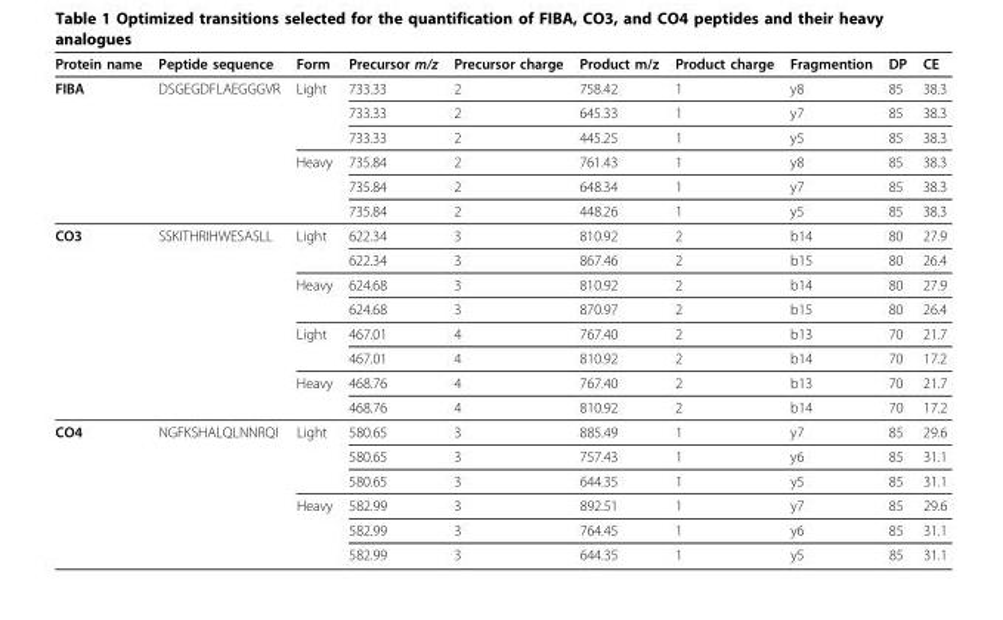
<table><thead><tr><td>Protein name</td><td>Peptide sequence</td><td>Form</td><td>Precursor m/z</td><td>Precursor charge</td><td>Product m/z</td><td>Product charge</td><td>Fragmention</td><td>DP</td><td>CE</td></tr></thead><tbody><tr><td rowspan="6">FIBA</td><td>DSGEGDFLAEGGGVR</td><td>Light</td><td>733.33</td><td>2</td><td>758.42</td><td>1</td><td>y8</td><td>85</td><td>38.3</td></tr><tr><td></td><td></td><td>733.33</td><td>2</td><td>645.33</td><td>1</td><td>y7</td><td>85</td><td>38.3</td></tr><tr><td></td><td></td><td>733.33</td><td>2</td><td>445.25</td><td>1</td><td>y5</td><td>85</td><td>38.3</td></tr><tr><td></td><td>Heavy</td><td>735.84</td><td>2</td><td>761.43</td><td>1</td><td>y8</td><td>85</td><td>38.3</td></tr><tr><td></td><td></td><td>735.84</td><td>2</td><td>648.34</td><td>1</td><td>y7</td><td>85</td><td>38.3</td></tr><tr><td></td><td></td><td>735.84</td><td>2</td><td>448.26</td><td>1</td><td>y5</td><td>85</td><td>38.3</td></tr><tr><td rowspan="8">CO3</td><td>SSKITHRIHWESASLL</td><td>Light</td><td>622.34</td><td>3</td><td>810.92</td><td>2</td><td>b14</td><td>80</td><td>27.9</td></tr><tr><td></td><td></td><td>622.34</td><td>3</td><td>867.46</td><td>2</td><td>b15</td><td>80</td><td>26.4</td></tr><tr><td></td><td>Heavy</td><td>624.68</td><td>3</td><td>810.92</td><td>2</td><td>b14</td><td>80</td><td>27.9</td></tr><tr><td></td><td></td><td>624.68</td><td>3</td><td>870.97</td><td>2</td><td>b15</td><td>80</td><td>26.4</td></tr><tr><td></td><td>Light</td><td>467.01</td><td>4</td><td>767.40</td><td>2</td><td>b13</td><td>70</td><td>21.7</td></tr><tr><td></td><td></td><td>467.01</td><td>4</td><td>810.92</td><td>2</td><td>b14</td><td>70</td><td>17.2</td></tr><tr><td></td><td>Heavy</td><td>468.76</td><td>4</td><td>767.40</td><td>2</td><td>b13</td><td>70</td><td>21.7</td></tr><tr><td></td><td></td><td>468.76</td><td>4</td><td>810.92</td><td>2</td><td>b14</td><td>70</td><td>17.2</td></tr><tr><td rowspan="6">CO4</td><td>NGFKSHALQLNNRQI</td><td>Light</td><td>580.65</td><td>3</td><td>885.49</td><td>1</td><td>y7</td><td>85</td><td>29.6</td></tr><tr><td></td><td></td><td>580.65</td><td>3</td><td>757.43</td><td>1</td><td>y6</td><td>85</td><td>31.1</td></tr><tr><td></td><td></td><td>580.65</td><td>3</td><td>644.35</td><td>1</td><td>y5</td><td>85</td><td>31.1</td></tr><tr><td></td><td>Heavy</td><td>582.99</td><td>3</td><td>892.51</td><td>1</td><td>y7</td><td>85</td><td>29.6</td></tr><tr><td></td><td></td><td>582.99</td><td>3</td><td>764.45</td><td>1</td><td>y6</td><td>85</td><td>31.1</td></tr><tr><td></td><td></td><td>582.99</td><td>3</td><td>644.35</td><td>1</td><td>y5</td><td>85</td><td>31.1</td></tr></tbody></table>